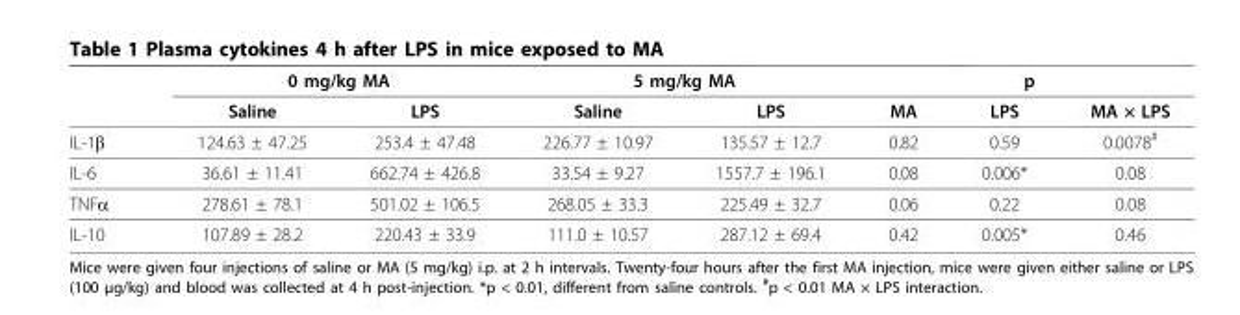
<table><thead><tr><td rowspan="2"></td><td colspan="2">0 mg/kg MA</td><td colspan="2">5 mg/kg MA</td><td colspan="3">p</td></tr><tr><td>Saline</td><td>LPS</td><td>Saline</td><td>LPS</td><td>MA</td><td>LPS</td><td>MA × LPS</td></tr></thead><tbody><tr><td>IL-1β</td><td>124.63 ± 47.25</td><td>253.4 ± 47.48</td><td>226.77 ± 10.97</td><td>135.57 ± 12.7</td><td>0.82</td><td>0.59</td><td>0.0078<sup>#</sup></td></tr><tr><td>IL-6</td><td>36.61 ± 11.41</td><td>662.74 ± 426.8</td><td>33.54 ± 9.27</td><td>1557.7 ± 196.1</td><td>0.08</td><td>0.006*</td><td>0.08</td></tr><tr><td>TNFα</td><td>278.61 ± 78.1</td><td>501.02 ± 106.5</td><td>268.05 ± 33.3</td><td>225.49 ± 32.7</td><td>0.06</td><td>0.22</td><td>0.08</td></tr><tr><td>IL-10</td><td>107.89 ± 28.2</td><td>220.43 ± 33.9</td><td>111.0 ± 10.57</td><td>287.12 ± 69.4</td><td>0.42</td><td>0.005*</td><td>0.46</td></tr></tbody></table>